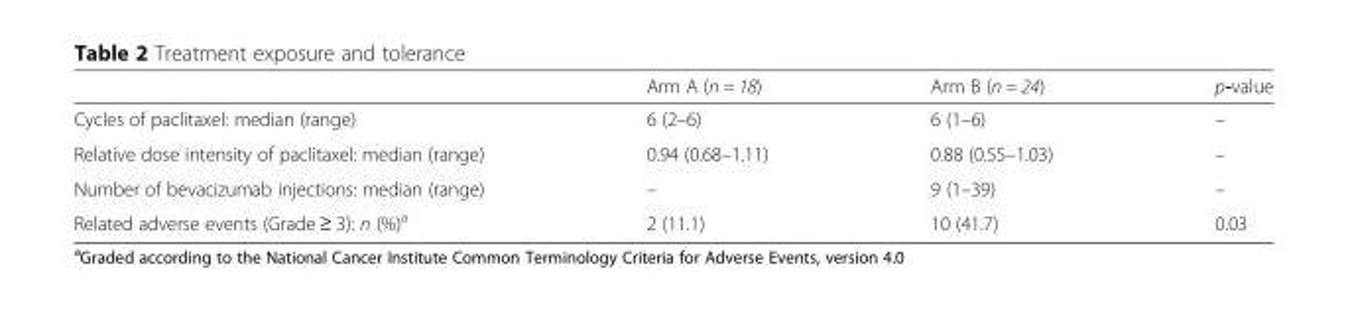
<table><thead><tr><td></td><td>Arm A (n = 18)</td><td>Arm B (n = 24)</td><td>p-value</td></tr></thead><tbody><tr><td>Cycles of paclitaxel: median (range)</td><td>6 (2–6)</td><td>6 (1–6)</td><td>–</td></tr><tr><td>Relative dose intensity of paclitaxel: median (range)</td><td>0.94 (0.68–1.11)</td><td>0.88 (0.55–1.03)</td><td>–</td></tr><tr><td>Number of bevacizumab injections: median (range)</td><td>–</td><td>9 (1–39)</td><td>–</td></tr><tr><td>Related adverse events (Grade ≥ 3): n (%)<sup>a</sup></td><td>2 (11.1)</td><td>10 (41.7)</td><td>0.03</td></tr></tbody></table>